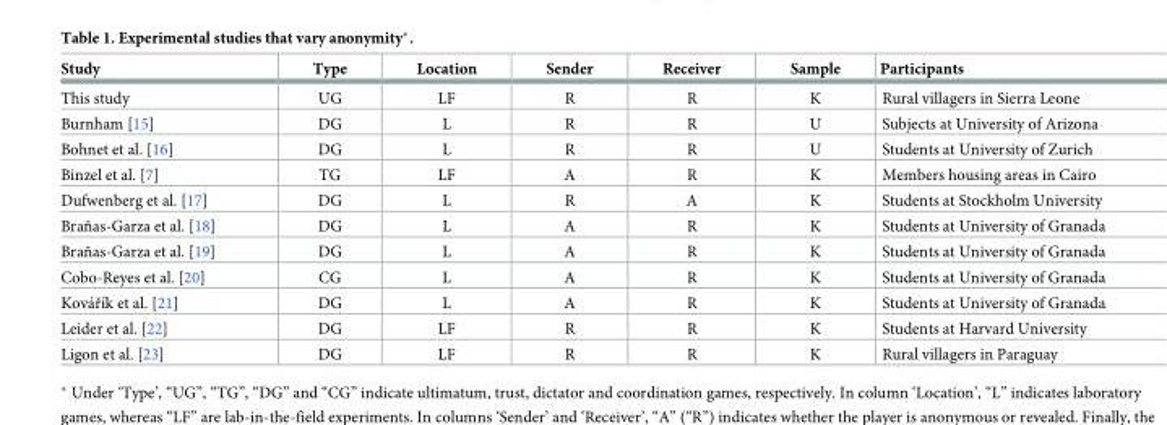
<table><thead><tr><td>Study</td><td>Type</td><td>Location</td><td>Sender</td><td>Receiver</td><td>Sample</td><td>Participants</td></tr></thead><tbody><tr><td>This study</td><td>UG</td><td>LF</td><td>R</td><td>R</td><td>K</td><td>Rural villagers in Sierra Leone</td></tr><tr><td>Burnham [15]</td><td>DG</td><td>L</td><td>R</td><td>R</td><td>U</td><td>Subjects at University of Arizona</td></tr><tr><td>Bohnet et al. [16]</td><td>DG</td><td>L</td><td>R</td><td>R</td><td>U</td><td>Students at University of Zurich</td></tr><tr><td>Binzel et al. [7]</td><td>TG</td><td>LF</td><td>A</td><td>R</td><td>K</td><td>Members housing areas in Cairo</td></tr><tr><td>Dufwenberg et al. [17]</td><td>DG</td><td>L</td><td>R</td><td>A</td><td>K</td><td>Students at Stockholm University</td></tr><tr><td>Brañas-Garza et al. [18]</td><td>DG</td><td>L</td><td>A</td><td>R</td><td>K</td><td>Students at University of Granada</td></tr><tr><td>Brañas-Garza et al. [19]</td><td>DG</td><td>L</td><td>A</td><td>R</td><td>K</td><td>Students at University of Granada</td></tr><tr><td>Cobo-Reyes et al. [20]</td><td>CG</td><td>L</td><td>A</td><td>R</td><td>K</td><td>Students at University of Granada</td></tr><tr><td>Kova´řı´k et al. [21]</td><td>DG</td><td>L</td><td>A</td><td>R</td><td>K</td><td>Students at University of Granada</td></tr><tr><td>Leider et al. [22]</td><td>DG</td><td>LF</td><td>R</td><td>R</td><td>K</td><td>Students at Harvard University</td></tr><tr><td>Ligon et al. [23]</td><td>DG</td><td>LF</td><td>R</td><td>R</td><td>K</td><td>Rural villagers in Paraguay</td></tr></tbody></table>